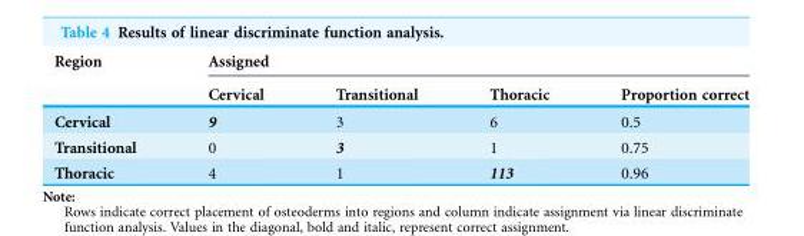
<table><thead><tr><td rowspan="2">Region</td><td colspan="4">Assigned</td></tr><tr><td>Cervical</td><td>Transitional</td><td>Thoracic</td><td>Proportion correct</td></tr></thead><tbody><tr><td>Cervical</td><td>9</td><td>3</td><td>6</td><td>0.5</td></tr><tr><td>Transitional</td><td>0</td><td>3</td><td>1</td><td>0.75</td></tr><tr><td>Thoracic</td><td>4</td><td>1</td><td>113</td><td>0.96</td></tr></tbody></table>